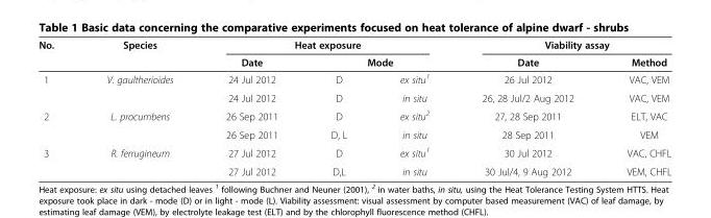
<table><thead><tr><td rowspan="3">No. 1</td><td rowspan="3">Species V. gaultherioides</td><td colspan="3">Heat exposure</td><td colspan="2">Viability assay</td></tr><tr><td rowspan="2">Date 24 Jul 2012</td><td colspan="2">Mode</td><td rowspan="2">Date 26 Jul 2012</td><td rowspan="2">Method VAC, VEM</td></tr><tr><td>D</td><td>ex situ<sup>1</sup></td></tr></thead><tbody><tr><td></td><td></td><td>24 Jul 2012</td><td>D</td><td>in situ</td><td>26, 28 Jul/2 Aug 2012</td><td>VAC, VEM</td></tr><tr><td rowspan="2">2</td><td>L. procumbens</td><td>26 Sep 2011</td><td>D</td><td>ex situ<sup>2</sup></td><td>27, 28 Sep 2011</td><td>ELT, VAC</td></tr><tr><td></td><td>26 Sep 2011</td><td>D, L</td><td>in situ</td><td>28 Sep 2011</td><td>VEM</td></tr><tr><td rowspan="2">3</td><td>R. ferrugineum</td><td>27 Jul 2012</td><td>D</td><td>ex situ<sup>1</sup></td><td>30 Jul 2012</td><td>VAC, CHFL</td></tr><tr><td></td><td>27 Jul 2012</td><td>D,L</td><td>in situ</td><td>30 Jul/4, 9 Aug 2012</td><td>VEM, CHFL</td></tr></tbody></table>